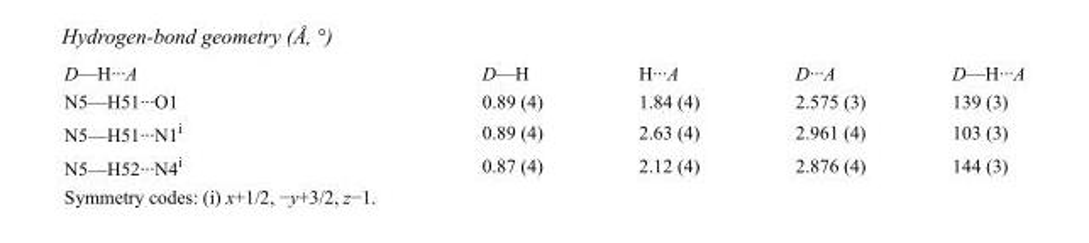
<table><tbody><tr><td>D—H···A</td><td>D—H</td><td>H···A</td><td>D···A</td><td>D—H···A</td></tr><tr><td>N5—H51···O1</td><td>0.89 (4)</td><td>1.84 (4)</td><td>2.575 (3)</td><td>139 (3)</td></tr><tr><td>N5—H51···N1<sup>i</sup></td><td>0.89 (4)</td><td>2.63 (4)</td><td>2.961 (4)</td><td>103 (3)</td></tr><tr><td>N5—H52···N4<sup>i</sup></td><td>0.87 (4)</td><td>2.12 (4)</td><td>2.876 (4)</td><td>144 (3)</td></tr></tbody></table>